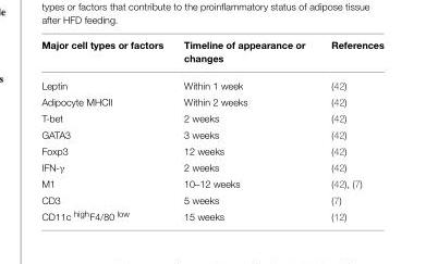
<table><thead><tr><td>Major cell types or factors</td><td>Timeline of appearance or changes</td><td>References</td></tr></thead><tbody><tr><td>Leptin</td><td>Within 1 week</td><td>(42)</td></tr><tr><td>Adipocyte MHCII</td><td>Within 2 weeks</td><td>(42)</td></tr><tr><td>T-bet</td><td>2 weeks</td><td>(42)</td></tr><tr><td>GATA3</td><td>3 weeks</td><td>(42)</td></tr><tr><td>Foxp3</td><td>12 weeks</td><td>(42)</td></tr><tr><td>IFN-γ</td><td>2 weeks</td><td>(42)</td></tr><tr><td>M1</td><td>10–12 weeks</td><td>(42), (7)</td></tr><tr><td>CD3</td><td>5 weeks</td><td>(7)</td></tr><tr><td>CD11c <sup>high</sup>F4/80 <sup>low</sup></td><td>15 weeks</td><td>(12)</td></tr></tbody></table>